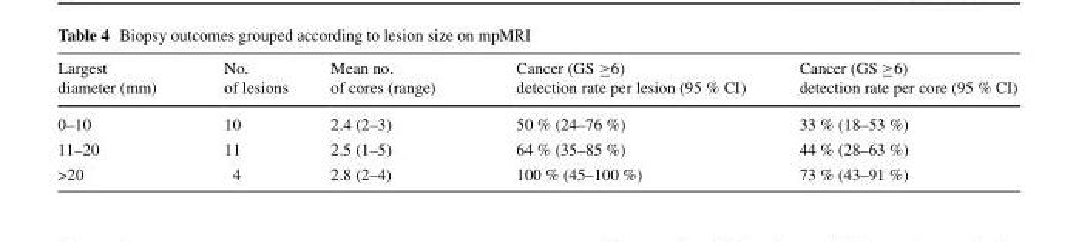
<table><thead><tr><td>Largest diameter (mm)</td><td>No. of lesions</td><td>Mean no. of cores (range)</td><td>Cancer (GS ≥6) detection rate per lesion (95 % CI)</td><td>Cancer (GS ≥6) detection rate per core (95 % CI)</td></tr></thead><tbody><tr><td>0–10</td><td>10</td><td>2.4 (2–3)</td><td>50 % (24–76 %)</td><td>33 % (18–53 %)</td></tr><tr><td>11–20</td><td>11</td><td>2.5 (1–5)</td><td>64 % (35–85 %)</td><td>44 % (28–63 %)</td></tr><tr><td>&gt;20</td><td>4</td><td>2.8 (2–4)</td><td>100 % (45–100 %)</td><td>73 % (43–91 %)</td></tr></tbody></table>